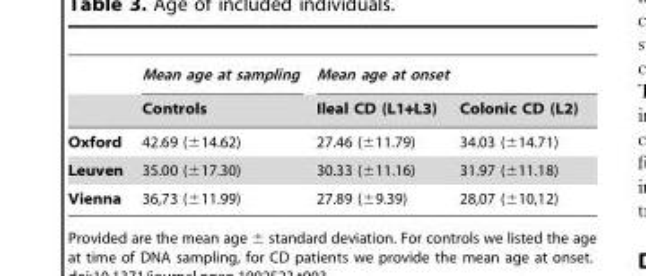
<table><thead><tr><td rowspan="2"></td><td rowspan="2">Mean age at sampling Controls</td><td colspan="2">Mean age at onset</td></tr><tr><td>Ileal CD (L1+L3)</td><td>Colonic CD (L2)</td></tr></thead><tbody><tr><td>Oxford</td><td>42.69 (±14.62)</td><td>27.46 (±11.79)</td><td>34.03 (±14.71)</td></tr><tr><td>Leuven</td><td>35.00 (±17.30)</td><td>30.33 (±11.16)</td><td>31.97 (±11.18)</td></tr><tr><td>Vienna</td><td>36,73 (±11.99)</td><td>27.89 (±9.39)</td><td>28,07 (±10,12)</td></tr></tbody></table>